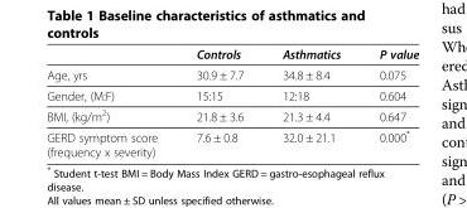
<table><thead><tr><td></td><td>Controls</td><td>Asthmatics</td><td>P value</td></tr></thead><tbody><tr><td>Age, yrs</td><td>30.9 ± 7.7</td><td>34.8 ± 8.4</td><td>0.075</td></tr><tr><td>Gender, (M:F)</td><td>15:15</td><td>12:18</td><td>0.604</td></tr><tr><td>BMI, (kg/m<sup>2</sup>)</td><td>21.8 ± 3.6</td><td>21.3 ± 4.4</td><td>0.647</td></tr><tr><td>GERD symptom score (frequency x severity)</td><td>7.6 ± 0.8</td><td>32.0 ± 21.1</td><td>0.000*</td></tr></tbody></table>